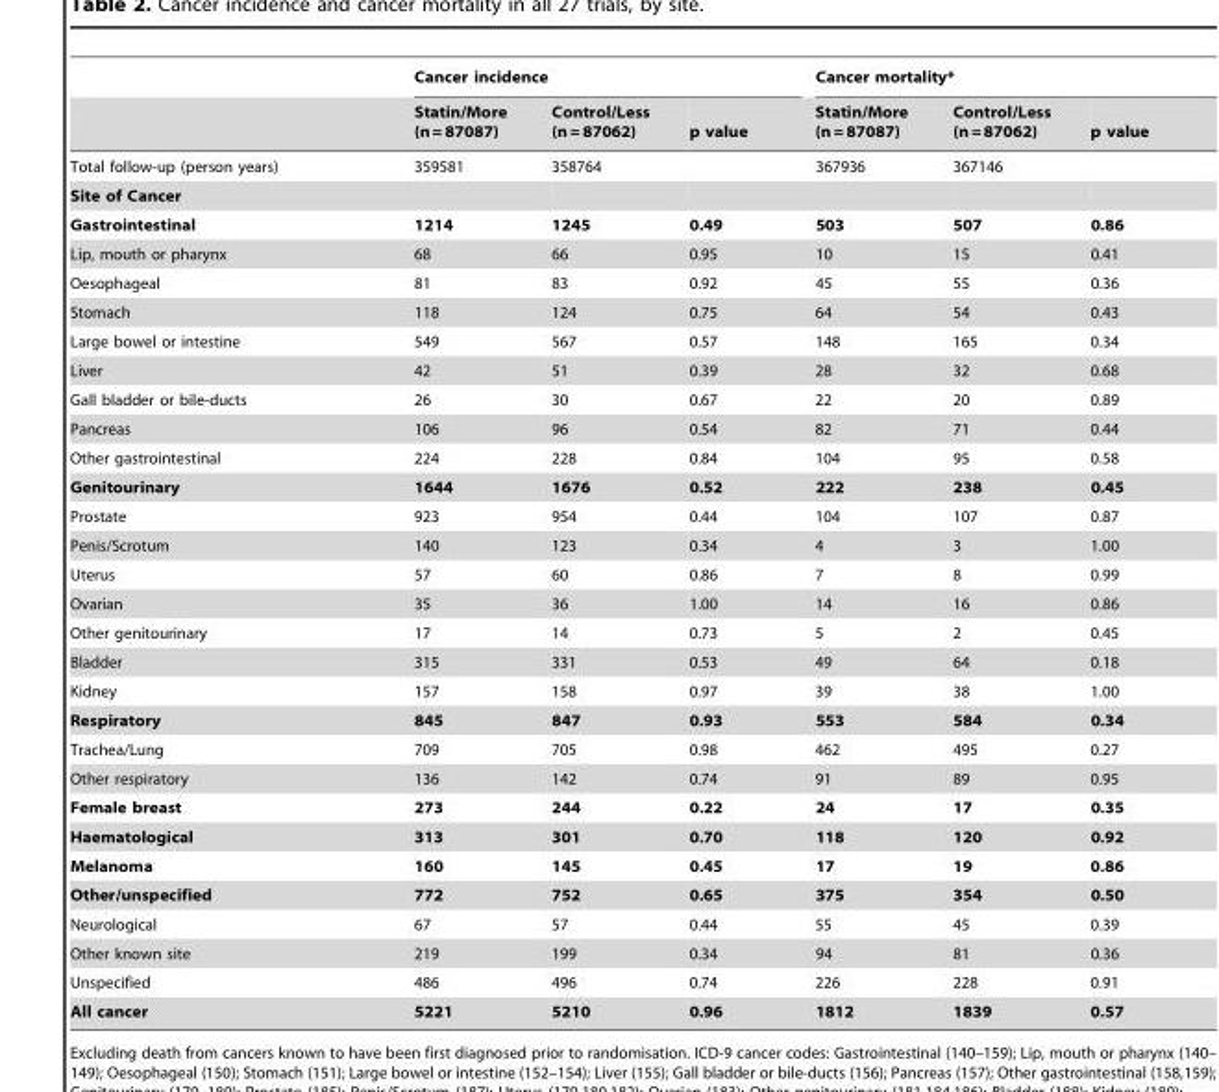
<table><thead><tr><td rowspan="2"></td><td colspan="3">Cancer incidence</td><td colspan="3">Cancer mortality*</td></tr><tr><td>Statin/More (n = 87087)</td><td>Control/Less (n = 87062)</td><td>p value</td><td>Statin/More (n = 87087)</td><td>Control/Less (n = 87062)</td><td>p value</td></tr></thead><tbody><tr><td>Total follow-up (person years)</td><td>359581</td><td>358764</td><td></td><td>367936</td><td>367146</td><td></td></tr><tr><td colspan="7">Site of Cancer</td></tr><tr><td>Gastrointestinal</td><td>1214</td><td>1245</td><td>0.49</td><td>503</td><td>507</td><td>0.86</td></tr><tr><td>Lip, mouth or pharynx</td><td>68</td><td>66</td><td>0.95</td><td>10</td><td>15</td><td>0.41</td></tr><tr><td>Oesophageal</td><td>81</td><td>83</td><td>0.92</td><td>45</td><td>55</td><td>0.36</td></tr><tr><td>Stomach</td><td>118</td><td>124</td><td>0.75</td><td>64</td><td>54</td><td>0.43</td></tr><tr><td>Large bowel or intestine</td><td>549</td><td>567</td><td>0.57</td><td>148</td><td>165</td><td>0.34</td></tr><tr><td>Liver</td><td>42</td><td>51</td><td>0.39</td><td>28</td><td>32</td><td>0.68</td></tr><tr><td>Gall bladder or bile-ducts</td><td>26</td><td>30</td><td>0.67</td><td>22</td><td>20</td><td>0.89</td></tr><tr><td>Pancreas</td><td>106</td><td>96</td><td>0.54</td><td>82</td><td>71</td><td>0.44</td></tr><tr><td>Other gastrointestinal</td><td>224</td><td>228</td><td>0.84</td><td>104</td><td>95</td><td>0.58</td></tr><tr><td>Genitourinary</td><td>1644</td><td>1676</td><td>0.52</td><td>222</td><td>238</td><td>0.45</td></tr><tr><td>Prostate</td><td>923</td><td>954</td><td>0.44</td><td>104</td><td>107</td><td>0.87</td></tr><tr><td>Penis/Scrotum</td><td>140</td><td>123</td><td>0.34</td><td>4</td><td>3</td><td>1.00</td></tr><tr><td>Uterus</td><td>57</td><td>60</td><td>0.86</td><td>7</td><td>8</td><td>0.99</td></tr><tr><td>Ovarian</td><td>35</td><td>36</td><td>1.00</td><td>14</td><td>16</td><td>0.86</td></tr><tr><td>Other genitourinary</td><td>17</td><td>14</td><td>0.73</td><td>5</td><td>2</td><td>0.45</td></tr><tr><td>Bladder</td><td>315</td><td>331</td><td>0.53</td><td>49</td><td>64</td><td>0.18</td></tr><tr><td>Kidney</td><td>157</td><td>158</td><td>0.97</td><td>39</td><td>38</td><td>1.00</td></tr><tr><td>Respiratory</td><td>845</td><td>847</td><td>0.93</td><td>553</td><td>584</td><td>0.34</td></tr><tr><td>Trachea/Lung</td><td>709</td><td>705</td><td>0.98</td><td>462</td><td>495</td><td>0.27</td></tr><tr><td>Other respiratory</td><td>136</td><td>142</td><td>0.74</td><td>91</td><td>89</td><td>0.95</td></tr><tr><td>Female breast</td><td>273</td><td>244</td><td>0.22</td><td>24</td><td>17</td><td>0.35</td></tr><tr><td>Haematological</td><td>313</td><td>301</td><td>0.70</td><td>118</td><td>120</td><td>0.92</td></tr><tr><td>Melanoma</td><td>160</td><td>145</td><td>0.45</td><td>17</td><td>19</td><td>0.86</td></tr><tr><td>Other/unspecified</td><td>772</td><td>752</td><td>0.65</td><td>375</td><td>354</td><td>0.50</td></tr><tr><td>Neurological</td><td>67</td><td>57</td><td>0.44</td><td>55</td><td>45</td><td>0.39</td></tr><tr><td>Other known site</td><td>219</td><td>199</td><td>0.34</td><td>94</td><td>81</td><td>0.36</td></tr><tr><td>Unspecified</td><td>486</td><td>496</td><td>0.74</td><td>226</td><td>228</td><td>0.91</td></tr><tr><td>All cancer</td><td>5221</td><td>5210</td><td>0.96</td><td>1812</td><td>1839</td><td>0.57</td></tr></tbody></table>